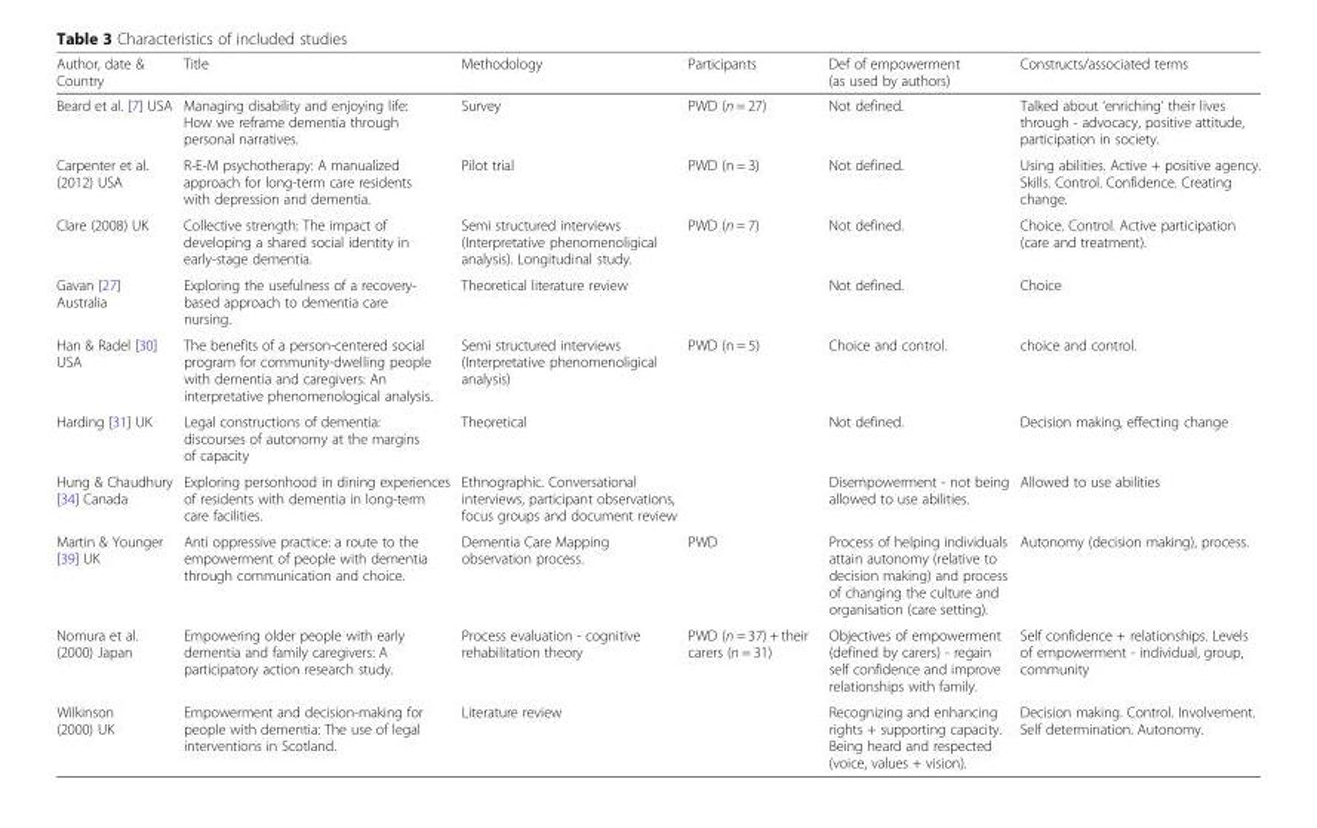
<table><thead><tr><td>Author, date &amp; Country</td><td>Title</td><td>Methodology</td><td>Participants</td><td>Def of empowerment (as used by authors)</td><td>Constructs/associated terms</td></tr></thead><tbody><tr><td>Beard et al. [7] USA</td><td>Managing disability and enjoying life: How we reframe dementia through personal narratives.</td><td>Survey</td><td>PWD (n = 27)</td><td>Not defined.</td><td>Talked about ‘enriching’ their lives through - advocacy, positive attitude, participation in society.</td></tr><tr><td>Carpenter et al. (2012) USA</td><td>R-E-M psychotherapy: A manualized approach for long-term care residents with depression and dementia.</td><td>Pilot trial</td><td>PWD (n = 3)</td><td>Not defined.</td><td>Using abilities. Active + positive agency. Skills. Control. Confidence. Creating change.</td></tr><tr><td>Clare (2008) UK</td><td>Collective strength: The impact of developing a shared social identity in early-stage dementia.</td><td>Semi structured interviews (Interpretative phenomenoligical analysis). Longitudinal study.</td><td>PWD (n = 7)</td><td>Not defined.</td><td>Choice. Control. Active participation (care and treatment).</td></tr><tr><td>Gavan [27] Australia</td><td>Exploring the usefulness of a recovery- based approach to dementia care nursing.</td><td>Theoretical literature review</td><td></td><td>Not defined.</td><td>Choice</td></tr><tr><td>Han &amp; Radel [30] USA</td><td>The benefits of a person-centered social program for community-dwelling people with dementia and caregivers: An interpretative phenomenological analysis.</td><td>Semi structured interviews (Interpretative phenomenoligical analysis)</td><td>PWD (n = 5)</td><td>Choice and control.</td><td>choice and control.</td></tr><tr><td>Harding [31] UK</td><td>Legal constructions of dementia: discourses of autonomy at the margins of capacity</td><td>Theoretical</td><td></td><td>Not defined.</td><td>Decision making, effecting change</td></tr><tr><td>Hung &amp; Chaudhury [34] Canada</td><td>Exploring personhood in dining experiences of residents with dementia in long-term care facilities.</td><td>Ethnographic. Conversational interviews, participant observations, focus groups and document review</td><td></td><td>Disempowerment - not being allowed to use abilities.</td><td>Allowed to use abilities</td></tr><tr><td>Martin &amp; Younger [39] UK</td><td>Anti oppressive practice: a route to the empowerment of people with dementia through communication and choice.</td><td>Dementia Care Mapping observation process.</td><td>PWD</td><td>Process of helping individuals attain autonomy (relative to decision making) and process of changing the culture and organisation (care setting).</td><td>Autonomy (decision making), process.</td></tr><tr><td>Nomura et al. (2000) Japan</td><td>Empowering older people with early dementia and family caregivers: A participatory action research study.</td><td>Process evaluation - cognitive rehabilitation theory</td><td>PWD (n = 37) + their carers (n = 31)</td><td>Objectives of empowerment (defined by carers) - regain self confidence and improve relationships with family.</td><td>Self confidence + relationships. Levels of empowerment - individual, group, community</td></tr><tr><td>Wilkinson (2000) UK</td><td>Empowerment and decision-making for people with dementia: The use of legal interventions in Scotland.</td><td>Literature review</td><td></td><td>Recognizing and enhancing rights + supporting capacity. Being heard and respected (voice, values + vision).</td><td>Decision making. Control. Involvement. Self determination. Autonomy.</td></tr></tbody></table>